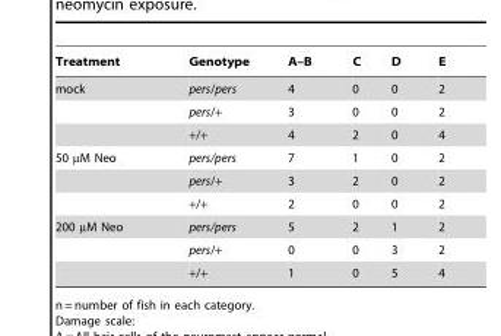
<table><thead><tr><td>Treatment</td><td>Genotype</td><td>A–B</td><td>C</td><td>D</td><td>E</td></tr></thead><tbody><tr><td rowspan="3">mock</td><td>pers/pers</td><td>4</td><td>0</td><td>0</td><td>2</td></tr><tr><td>pers/+</td><td>3</td><td>0</td><td>0</td><td>2</td></tr><tr><td>+/+</td><td>4</td><td>2</td><td>0</td><td>4</td></tr><tr><td rowspan="3">50 µM Neo</td><td>pers/pers</td><td>7</td><td>1</td><td>0</td><td>2</td></tr><tr><td>pers/+</td><td>3</td><td>2</td><td>0</td><td>2</td></tr><tr><td>+/+</td><td>2</td><td>0</td><td>0</td><td>2</td></tr><tr><td rowspan="3">200 µM Neo</td><td>pers/pers</td><td>5</td><td>2</td><td>1</td><td>2</td></tr><tr><td>pers/+</td><td>0</td><td>0</td><td>3</td><td>2</td></tr><tr><td>+/+</td><td>1</td><td>0</td><td>5</td><td>4</td></tr></tbody></table>